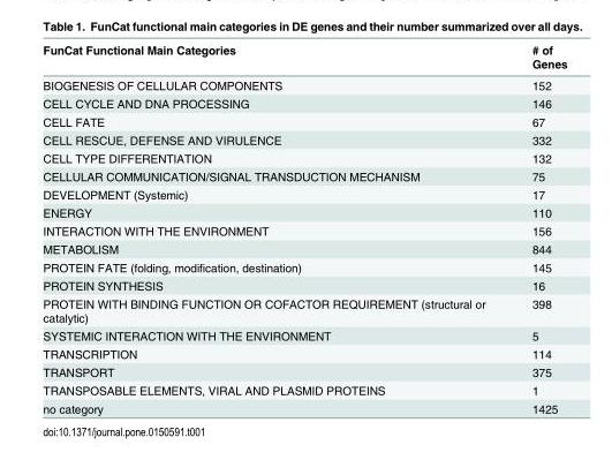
<table><thead><tr><td>FunCat Functional Main Categories</td><td># of Genes</td></tr></thead><tbody><tr><td>BIOGENESIS OF CELLULAR COMPONENTS</td><td>152</td></tr><tr><td>CELL CYCLE AND DNA PROCESSING</td><td>146</td></tr><tr><td>CELL FATE</td><td>67</td></tr><tr><td>CELL RESCUE, DEFENSE AND VIRULENCE</td><td>332</td></tr><tr><td>CELL TYPE DIFFERENTIATION</td><td>132</td></tr><tr><td>CELLULAR COMMUNICATION/SIGNAL TRANSDUCTION MECHANISM</td><td>75</td></tr><tr><td>DEVELOPMENT (Systemic)</td><td>17</td></tr><tr><td>ENERGY</td><td>110</td></tr><tr><td>INTERACTION WITH THE ENVIRONMENT</td><td>156</td></tr><tr><td>METABOLISM</td><td>844</td></tr><tr><td>PROTEIN FATE (folding, modification, destination)</td><td>145</td></tr><tr><td>PROTEIN SYNTHESIS</td><td>16</td></tr><tr><td>PROTEIN WITH BINDING FUNCTION OR COFACTOR REQUIREMENT (structural or catalytic)</td><td>398</td></tr><tr><td>SYSTEMIC INTERACTION WITH THE ENVIRONMENT</td><td>5</td></tr><tr><td>TRANSCRIPTION</td><td>114</td></tr><tr><td>TRANSPORT</td><td>375</td></tr><tr><td>TRANSPOSABLE ELEMENTS, VIRAL AND PLASMID PROTEINS</td><td>1</td></tr><tr><td>no category</td><td>1425</td></tr></tbody></table>